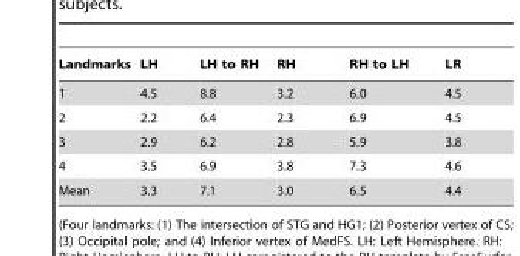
<table><thead><tr><td>Landmarks</td><td>LH</td><td>LH to RH</td><td>RH</td><td>RH to LH</td><td>LR</td></tr></thead><tbody><tr><td>1</td><td>4.5</td><td>8.8</td><td>3.2</td><td>6.0</td><td>4.5</td></tr><tr><td>2</td><td>2.2</td><td>6.4</td><td>2.3</td><td>6.9</td><td>4.5</td></tr><tr><td>3</td><td>2.9</td><td>6.2</td><td>2.8</td><td>5.9</td><td>3.8</td></tr><tr><td>4</td><td>3.5</td><td>6.9</td><td>3.8</td><td>7.3</td><td>4.6</td></tr><tr><td>Mean</td><td>3.3</td><td>7.1</td><td>3.0</td><td>6.5</td><td>4.4</td></tr></tbody></table>